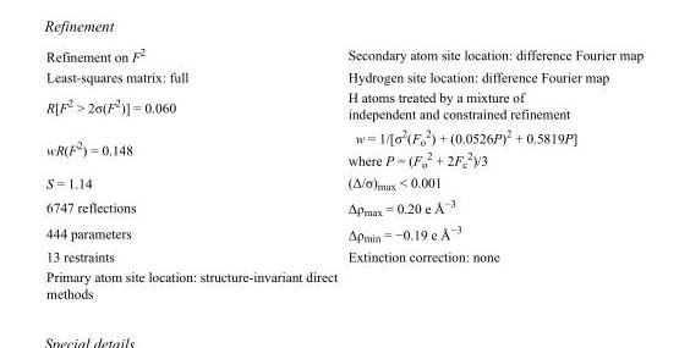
<table><tbody><tr><td>Refinement on F<sup>2</sup></td><td>Secondary atom site location: difference Fourier map</td></tr><tr><td>Least-squares matrix: full</td><td>Hydrogen site location: difference Fourier map</td></tr><tr><td>R[F<sup>2</sup> &gt; 2σ(F<sup>2</sup>)] = 0.060</td><td>H atoms treated by a mixture of independent and constrained refinement</td></tr><tr><td>wR(F<sup>2</sup>) = 0.148</td><td>w = 1/[σ<sup>2</sup>(F<sub>o</sub> <sup>2</sup>) + (0.0526P)<sup>2</sup> + 0.5819P] where P = (F<sub>o</sub> <sup>2</sup> + 2F<sub>c</sub> <sup>2</sup>)/3</td></tr><tr><td>S = 1.14</td><td>(Δ/σ)<sub>max</sub> &lt; 0.001</td></tr><tr><td>6747 reflections</td><td>Δρ<sub>max</sub> = 0.20 e Å<sup>−3</sup></td></tr><tr><td>444 parameters</td><td>Δρ<sub>min</sub> = −0.19 e Å<sup>−3</sup></td></tr><tr><td>13 restraints</td><td>Extinction correction: none</td></tr><tr><td>Primary atom site location: structure-invariant direct methods</td><td></td></tr></tbody></table>